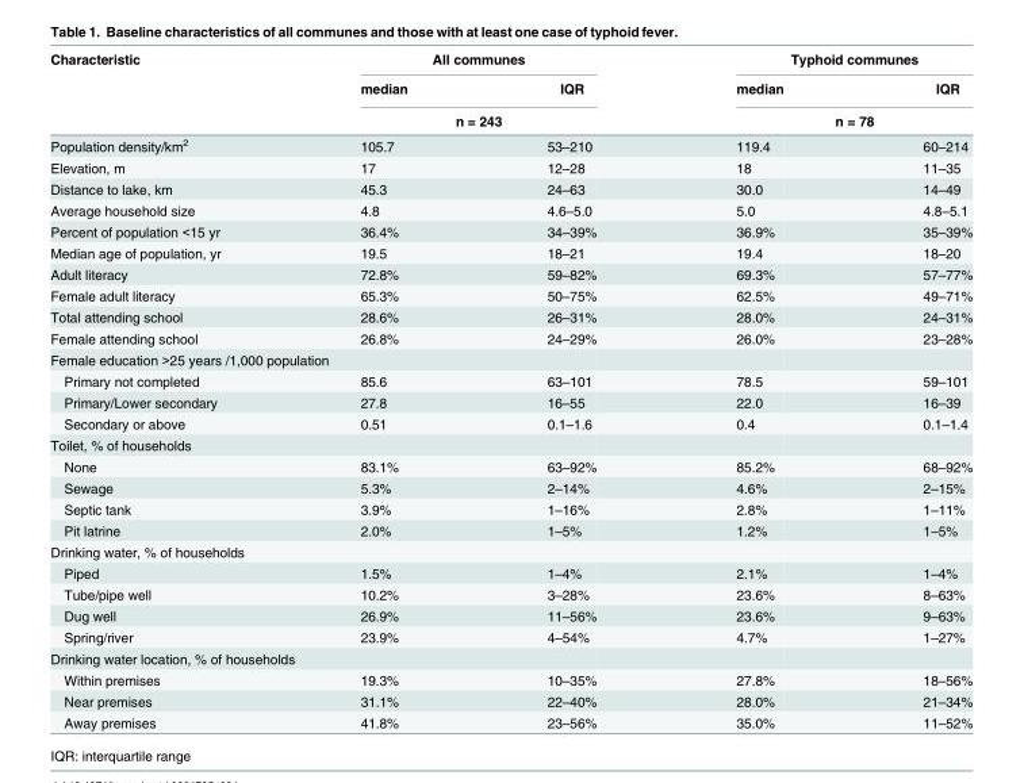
<table><thead><tr><td rowspan="3">Characteristic</td><td colspan="2">All communes</td><td colspan="2">Typhoid communes</td></tr><tr><td>median</td><td>IQR</td><td>median</td><td>IQR</td></tr><tr><td colspan="2">n = 243</td><td colspan="2">n = 78</td></tr></thead><tbody><tr><td>Population density/km<sup>2</sup></td><td>105.7</td><td>53–210</td><td>119.4</td><td>60–214</td></tr><tr><td>Elevation, m</td><td>17</td><td>12–28</td><td>18</td><td>11–35</td></tr><tr><td>Distance to lake, km</td><td>45.3</td><td>24–63</td><td>30.0</td><td>14–49</td></tr><tr><td>Average household size</td><td>4.8</td><td>4.6–5.0</td><td>5.0</td><td>4.8–5.1</td></tr><tr><td>Percent of population &lt;15 yr</td><td>36.4%</td><td>34–39%</td><td>36.9%</td><td>35–39%</td></tr><tr><td>Median age of population, yr</td><td>19.5</td><td>18–21</td><td>19.4</td><td>18–20</td></tr><tr><td>Adult literacy</td><td>72.8%</td><td>59–82%</td><td>69.3%</td><td>57–77%</td></tr><tr><td>Female adult literacy</td><td>65.3%</td><td>50–75%</td><td>62.5%</td><td>49–71%</td></tr><tr><td>Total attending school</td><td>28.6%</td><td>26–31%</td><td>28.0%</td><td>24–31%</td></tr><tr><td>Female attending school</td><td>26.8%</td><td>24–29%</td><td>26.0%</td><td>23–28%</td></tr><tr><td colspan="5">Female education &gt;25 years /1,000 population</td></tr><tr><td>Primary not completed</td><td>85.6</td><td>63–101</td><td>78.5</td><td>59–101</td></tr><tr><td>Primary/Lower secondary</td><td>27.8</td><td>16–55</td><td>22.0</td><td>16–39</td></tr><tr><td>Secondary or above</td><td>0.51</td><td>0.1–1.6</td><td>0.4</td><td>0.1–1.4</td></tr><tr><td colspan="5">Toilet, % of households</td></tr><tr><td>None</td><td>83.1%</td><td>63–92%</td><td>85.2%</td><td>68–92%</td></tr><tr><td>Sewage</td><td>5.3%</td><td>2–14%</td><td>4.6%</td><td>2–15%</td></tr><tr><td>Septic tank</td><td>3.9%</td><td>1–16%</td><td>2.8%</td><td>1–11%</td></tr><tr><td>Pit latrine</td><td>2.0%</td><td>1–5%</td><td>1.2%</td><td>1–5%</td></tr><tr><td colspan="5">Drinking water, % of households</td></tr><tr><td>Piped</td><td>1.5%</td><td>1–4%</td><td>2.1%</td><td>1–4%</td></tr><tr><td>Tube/pipe well</td><td>10.2%</td><td>3–28%</td><td>23.6%</td><td>8–63%</td></tr><tr><td>Dug well</td><td>26.9%</td><td>11–56%</td><td>23.6%</td><td>9–63%</td></tr><tr><td>Spring/river</td><td>23.9%</td><td>4–54%</td><td>4.7%</td><td>1–27%</td></tr><tr><td colspan="5">Drinking water location, % of households</td></tr><tr><td>Within premises</td><td>19.3%</td><td>10–35%</td><td>27.8%</td><td>18–56%</td></tr><tr><td>Near premises</td><td>31.1%</td><td>22–40%</td><td>28.0%</td><td>21–34%</td></tr><tr><td>Away premises</td><td>41.8%</td><td>23–56%</td><td>35.0%</td><td>11–52%</td></tr></tbody></table>